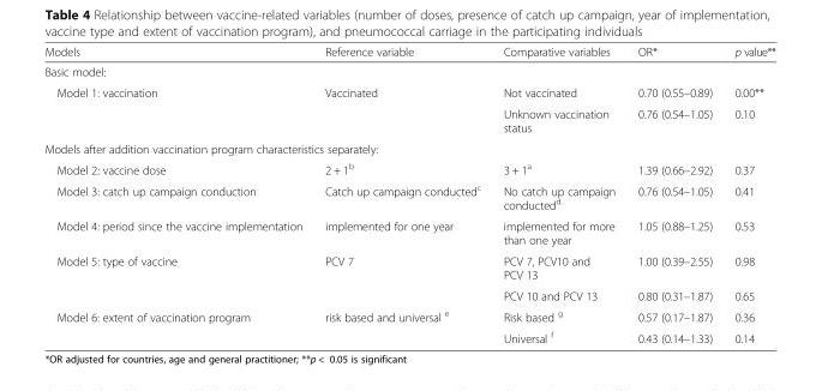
<table><thead><tr><td>Models</td><td>Reference variable</td><td>Comparative variables</td><td>OR*</td><td>p value**</td></tr></thead><tbody><tr><td colspan="5">Basic model:</td></tr><tr><td rowspan="2">Model 1: vaccination</td><td rowspan="2">Vaccinated</td><td>Not vaccinated</td><td>0.70 (0.55–0.89)</td><td>0.00**</td></tr><tr><td>Unknown vaccination status</td><td>0.76 (0.54–1.05)</td><td>0.10</td></tr><tr><td colspan="5">Models after addition vaccination program characteristics separately:</td></tr><tr><td>Model 2: vaccine dose</td><td>2 + 1<sup>b</sup></td><td>3 + 1<sup>a</sup></td><td>1.39 (0.66–2.92)</td><td>0.37</td></tr><tr><td>Model 3: catch up campaign conduction</td><td>Catch up campaign conducted<sup>c</sup></td><td>No catch up campaign conducted<sup>d</sup></td><td>0.76 (0.54–1.05)</td><td>0.41</td></tr><tr><td>Model 4: period since the vaccine implementation</td><td>implemented for one year</td><td>implemented for more than one year</td><td>1.05 (0.88–1.25)</td><td>0.53</td></tr><tr><td rowspan="2">Model 5: type of vaccine</td><td rowspan="2">PCV 7</td><td>PCV 7, PCV10 and PCV 13</td><td>1.00 (0.39–2.55)</td><td>0.98</td></tr><tr><td>PCV 10 and PCV 13</td><td>0.80 (0.31–1.87)</td><td>0.65</td></tr><tr><td rowspan="2">Model 6: extent of vaccination program</td><td rowspan="2">risk based and universal <sup>e</sup></td><td>Risk based <sup>g</sup></td><td>0.57 (0.17–1.87)</td><td>0.36</td></tr><tr><td>Universal <sup>f</sup></td><td>0.43 (0.14–1.33)</td><td>0.14</td></tr></tbody></table>